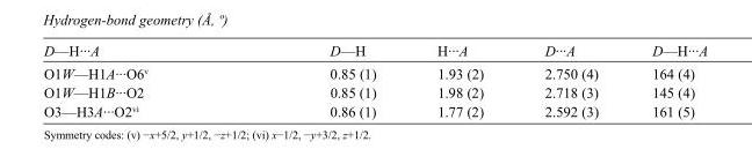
<table><tbody><tr><td>D—H···A</td><td>D—H</td><td>H···A</td><td>D···A</td><td>D—H···A</td></tr><tr><td>O1W—H1A···O6<sup>v</sup></td><td>0.85 (1)</td><td>1.93 (2)</td><td>2.750 (4)</td><td>164 (4)</td></tr><tr><td>O1W—H1B···O2</td><td>0.85 (1)</td><td>1.98 (2)</td><td>2.718 (3)</td><td>145 (4)</td></tr><tr><td>O3—H3A···O2<sup>vi</sup></td><td>0.86 (1)</td><td>1.77 (2)</td><td>2.592 (3)</td><td>161 (5)</td></tr></tbody></table>